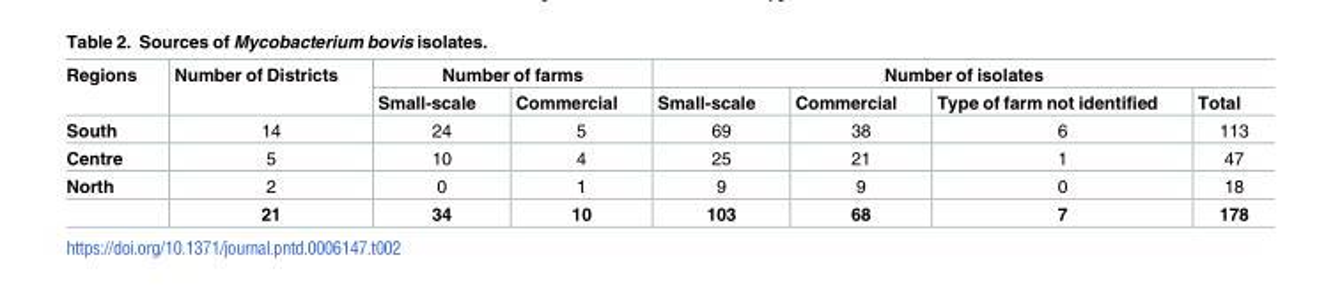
<table><thead><tr><td rowspan="2">Regions</td><td rowspan="2">Number of Districts</td><td colspan="2">Number of farms</td><td colspan="4">Number of isolates</td></tr><tr><td>Small-scale</td><td>Commercial</td><td>Small-scale</td><td>Commercial</td><td>Type of farm not identified</td><td>Total</td></tr></thead><tbody><tr><td>South</td><td>14</td><td>24</td><td>5</td><td>69</td><td>38</td><td>6</td><td>113</td></tr><tr><td>Centre</td><td>5</td><td>10</td><td>4</td><td>25</td><td>21</td><td>1</td><td>47</td></tr><tr><td rowspan="2">North</td><td>2</td><td>0</td><td>1</td><td>9</td><td>9</td><td>0</td><td>18</td></tr><tr><td>21</td><td>34</td><td>10</td><td>103</td><td>68</td><td>7</td><td>178</td></tr></tbody></table>